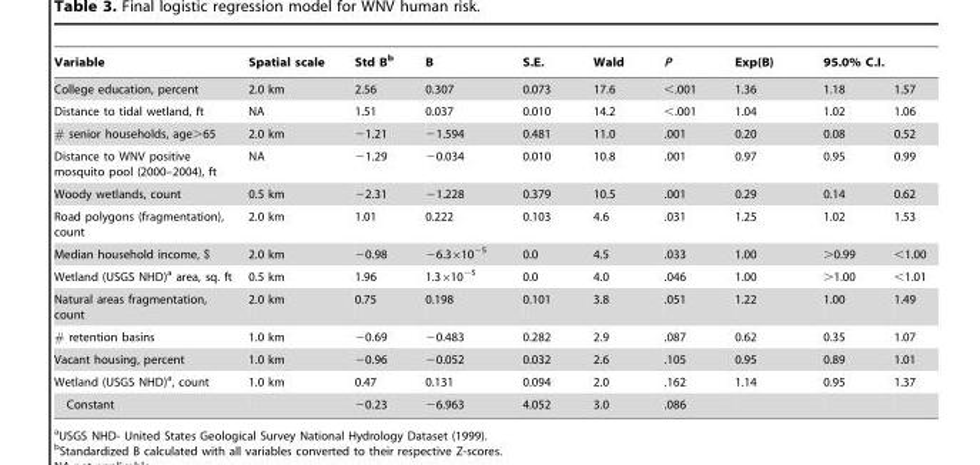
<table><thead><tr><td rowspan="2">Variable College education, percent</td><td rowspan="2">Spatial scale 2.0 km</td><td rowspan="2">Std B<sup>b</sup> 2.56</td><td rowspan="2">B 0.307</td><td rowspan="2">S.E. 0.073</td><td rowspan="2">Wald 17.6</td><td rowspan="2">P &lt;.001</td><td rowspan="2">Exp(B) 1.36</td><td colspan="2">95.0% C.I.</td></tr><tr><td>1.18</td><td>1.57</td></tr></thead><tbody><tr><td>Distance to tidal wetland, ft</td><td>NA</td><td>1.51</td><td>0.037</td><td>0.010</td><td>14.2</td><td>&lt;.001</td><td>1.04</td><td>1.02</td><td>1.06</td></tr><tr><td># senior households, age&gt;65</td><td>2.0 km</td><td>−1.21</td><td>−1.594</td><td>0.481</td><td>11.0</td><td>.001</td><td>0.20</td><td>0.08</td><td>0.52</td></tr><tr><td>Distance to WNV positive mosquito pool (2000–2004), ft</td><td>NA</td><td>−1.29</td><td>−0.034</td><td>0.010</td><td>10.8</td><td>.001</td><td>0.97</td><td>0.95</td><td>0.99</td></tr><tr><td>Woody wetlands, count</td><td>0.5 km</td><td>−2.31</td><td>−1.228</td><td>0.379</td><td>10.5</td><td>.001</td><td>0.29</td><td>0.14</td><td>0.62</td></tr><tr><td>Road polygons (fragmentation), count</td><td>2.0 km</td><td>1.01</td><td>0.222</td><td>0.103</td><td>4.6</td><td>.031</td><td>1.25</td><td>1.02</td><td>1.53</td></tr><tr><td>Median household income, $</td><td>2.0 km</td><td>−0.98</td><td>−6.3×10<sup>−5</sup></td><td>0.0</td><td>4.5</td><td>.033</td><td>1.00</td><td>&gt;0.99</td><td>&lt;1.00</td></tr><tr><td>Wetland (USGS NHD)<sup>a</sup> area, sq. ft</td><td>0.5 km</td><td>1.96</td><td>1.3×10<sup>−5</sup></td><td>0.0</td><td>4.0</td><td>.046</td><td>1.00</td><td>&gt;1.00</td><td>&lt;1.01</td></tr><tr><td>Natural areas fragmentation, count</td><td>2.0 km</td><td>0.75</td><td>0.198</td><td>0.101</td><td>3.8</td><td>.051</td><td>1.22</td><td>1.00</td><td>1.49</td></tr><tr><td># retention basins</td><td>1.0 km</td><td>−0.69</td><td>−0.483</td><td>0.282</td><td>2.9</td><td>.087</td><td>0.62</td><td>0.35</td><td>1.07</td></tr><tr><td>Vacant housing, percent</td><td>1.0 km</td><td>−0.96</td><td>−0.052</td><td>0.032</td><td>2.6</td><td>.105</td><td>0.95</td><td>0.89</td><td>1.01</td></tr><tr><td>Wetland (USGS NHD)<sup>a</sup>, count</td><td>1.0 km</td><td>0.47</td><td>0.131</td><td>0.094</td><td>2.0</td><td>.162</td><td>1.14</td><td>0.95</td><td>1.37</td></tr><tr><td>Constant</td><td></td><td>−0.23</td><td>−6.963</td><td>4.052</td><td>3.0</td><td>.086</td><td></td><td></td><td></td></tr></tbody></table>